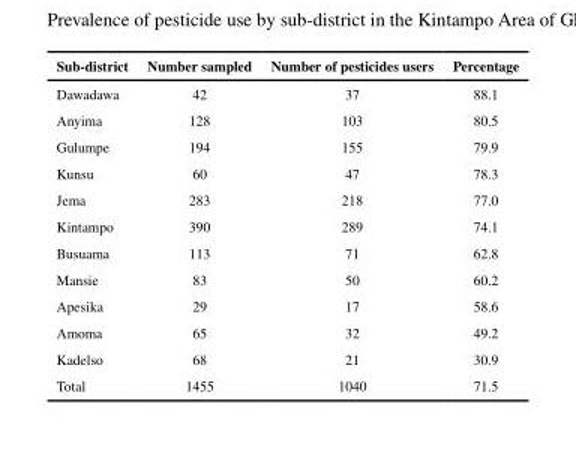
<table><thead><tr><td>Sub-district</td><td>Number sampled</td><td>Number of pesticides users</td><td>Percentage</td></tr></thead><tbody><tr><td>Dawadawa</td><td>42</td><td>37</td><td>88.1</td></tr><tr><td>Anyima</td><td>128</td><td>103</td><td>80.5</td></tr><tr><td>Gulumpe</td><td>194</td><td>155</td><td>79.9</td></tr><tr><td>Kunsu</td><td>60</td><td>47</td><td>78.3</td></tr><tr><td>Jema</td><td>283</td><td>218</td><td>77.0</td></tr><tr><td>Kintampo</td><td>390</td><td>289</td><td>74.1</td></tr><tr><td>Busuama</td><td>113</td><td>71</td><td>62.8</td></tr><tr><td>Mansie</td><td>83</td><td>50</td><td>60.2</td></tr><tr><td>Apesika</td><td>29</td><td>17</td><td>58.6</td></tr><tr><td>Amoma</td><td>65</td><td>32</td><td>49.2</td></tr><tr><td>Kadelso</td><td>68</td><td>21</td><td>30.9</td></tr><tr><td>Total</td><td>1455</td><td>1040</td><td>71.5</td></tr></tbody></table>